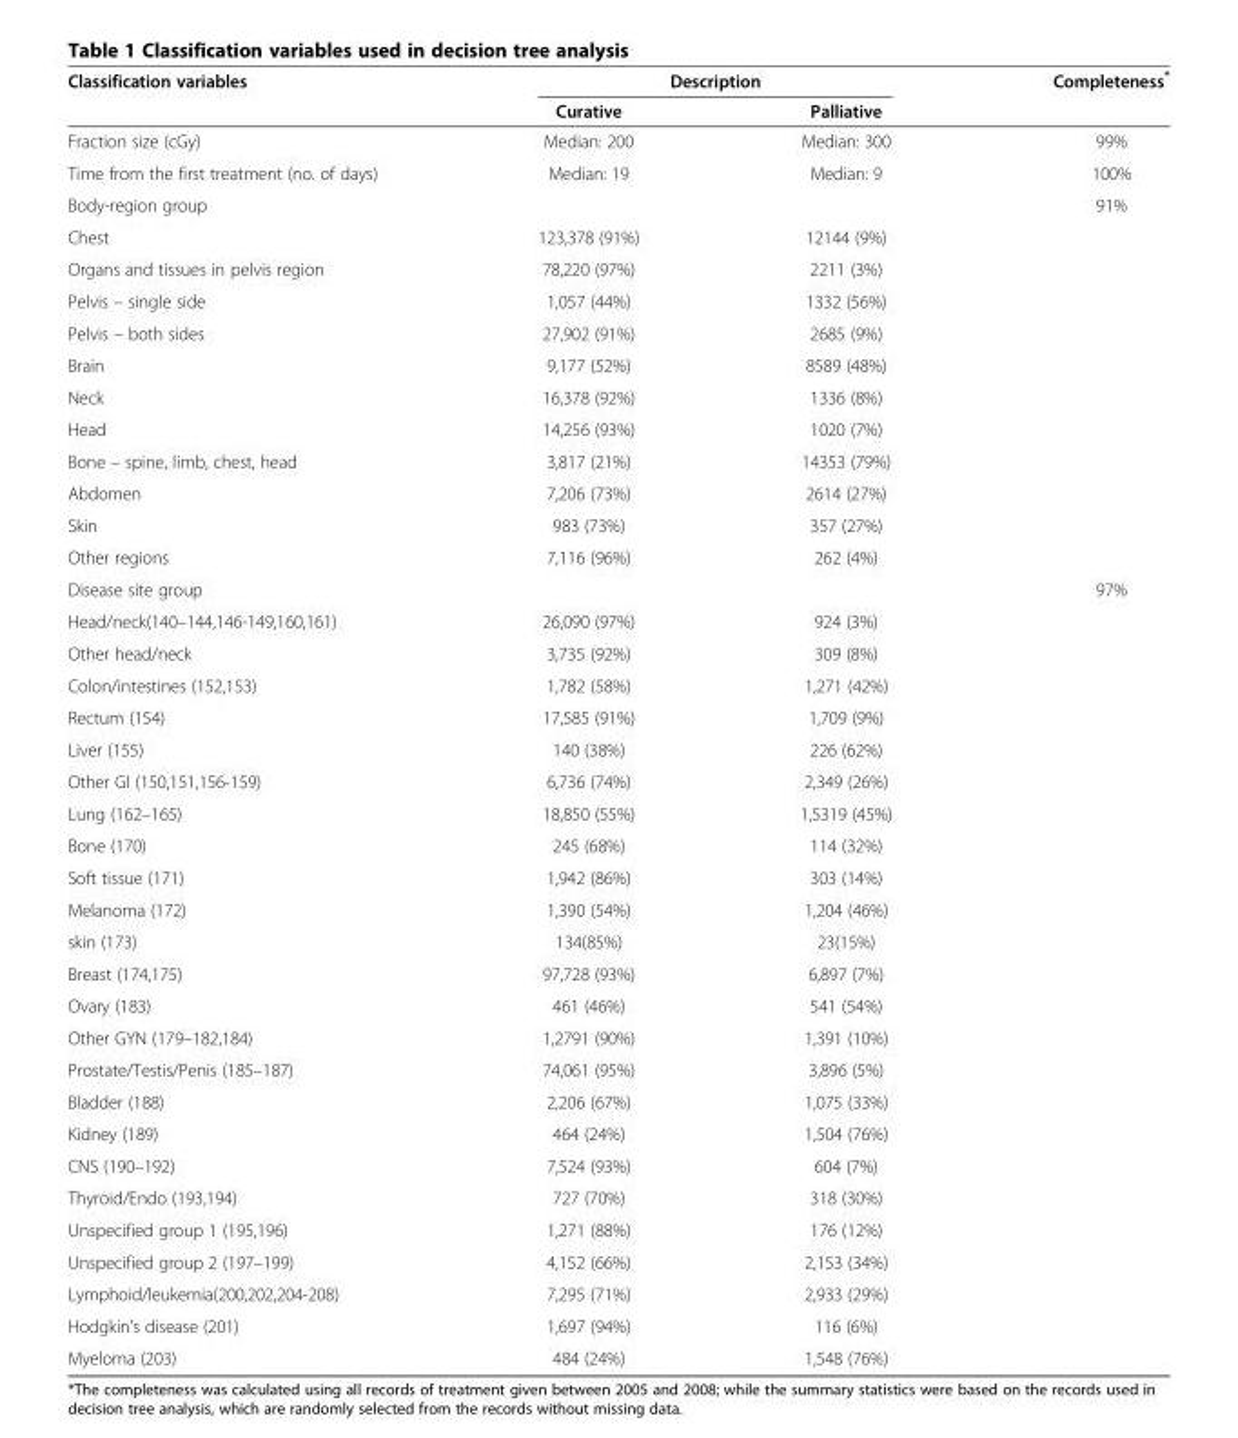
<table><thead><tr><td rowspan="2">Classification variables</td><td colspan="2">Description</td><td rowspan="2">Completeness*</td></tr><tr><td>Curative</td><td>Palliative</td></tr></thead><tbody><tr><td>Fraction size (cGy)</td><td>Median: 200</td><td>Median: 300</td><td>99%</td></tr><tr><td>Time from the first treatment (no. of days)</td><td>Median: 19</td><td>Median: 9</td><td>100%</td></tr><tr><td colspan="3">Body-region group</td><td rowspan="12">91%</td></tr><tr><td>Chest</td><td>123,378 (91%)</td><td>12144 (9%)</td></tr><tr><td>Organs and tissues in pelvis region</td><td>78,220 (97%)</td><td>2211 (3%)</td></tr><tr><td>Pelvis – single side</td><td>1,057 (44%)</td><td>1332 (56%)</td></tr><tr><td>Pelvis – both sides</td><td>27,902 (91%)</td><td>2685 (9%)</td></tr><tr><td>Brain</td><td>9,177 (52%)</td><td>8589 (48%)</td></tr><tr><td>Neck</td><td>16,378 (92%)</td><td>1336 (8%)</td></tr><tr><td>Head</td><td>14,256 (93%)</td><td>1020 (7%)</td></tr><tr><td>Bone – spine, limb, chest, head</td><td>3,817 (21%)</td><td>14353 (79%)</td></tr><tr><td>Abdomen</td><td>7,206 (73%)</td><td>2614 (27%)</td></tr><tr><td>Skin</td><td>983 (73%)</td><td>357 (27%)</td></tr><tr><td>Other regions</td><td>7,116 (96%)</td><td>262 (4%)</td></tr><tr><td colspan="3">Disease site group</td><td rowspan="25">97%</td></tr><tr><td>Head/neck(140–144,146-149,160,161)</td><td>26,090 (97%)</td><td>924 (3%)</td></tr><tr><td>Other head/neck</td><td>3,735 (92%)</td><td>309 (8%)</td></tr><tr><td>Colon/intestines (152,153)</td><td>1,782 (58%)</td><td>1,271 (42%)</td></tr><tr><td>Rectum (154)</td><td>17,585 (91%)</td><td>1,709 (9%)</td></tr><tr><td>Liver (155)</td><td>140 (38%)</td><td>226 (62%)</td></tr><tr><td>Other GI (150,151,156-159)</td><td>6,736 (74%)</td><td>2,349 (26%)</td></tr><tr><td>Lung (162–165)</td><td>18,850 (55%)</td><td>1,5319 (45%)</td></tr><tr><td>Bone (170)</td><td>245 (68%)</td><td>114 (32%)</td></tr><tr><td>Soft tissue (171)</td><td>1,942 (86%)</td><td>303 (14%)</td></tr><tr><td>Melanoma (172)</td><td>1,390 (54%)</td><td>1,204 (46%)</td></tr><tr><td>skin (173)</td><td>134(85%)</td><td>23(15%)</td></tr><tr><td>Breast (174,175)</td><td>97,728 (93%)</td><td>6,897 (7%)</td></tr><tr><td>Ovary (183)</td><td>461 (46%)</td><td>541 (54%)</td></tr><tr><td>Other GYN (179–182,184)</td><td>1,2791 (90%)</td><td>1,391 (10%)</td></tr><tr><td>Prostate/Testis/Penis (185–187)</td><td>74,061 (95%)</td><td>3,896 (5%)</td></tr><tr><td>Bladder (188)</td><td>2,206 (67%)</td><td>1,075 (33%)</td></tr><tr><td>Kidney (189)</td><td>464 (24%)</td><td>1,504 (76%)</td></tr><tr><td>CNS (190–192)</td><td>7,524 (93%)</td><td>604 (7%)</td></tr><tr><td>Thyroid/Endo (193,194)</td><td>727 (70%)</td><td>318 (30%)</td></tr><tr><td>Unspecified group 1 (195,196)</td><td>1,271 (88%)</td><td>176 (12%)</td></tr><tr><td>Unspecified group 2 (197–199)</td><td>4,152 (66%)</td><td>2,153 (34%)</td></tr><tr><td>Lymphoid/leukemia(200,202,204-208)</td><td>7,295 (71%)</td><td>2,933 (29%)</td></tr><tr><td>Hodgkin’s disease (201)</td><td>1,697 (94%)</td><td>116 (6%)</td></tr><tr><td>Myeloma (203)</td><td>484 (24%)</td><td>1,548 (76%)</td></tr></tbody></table>